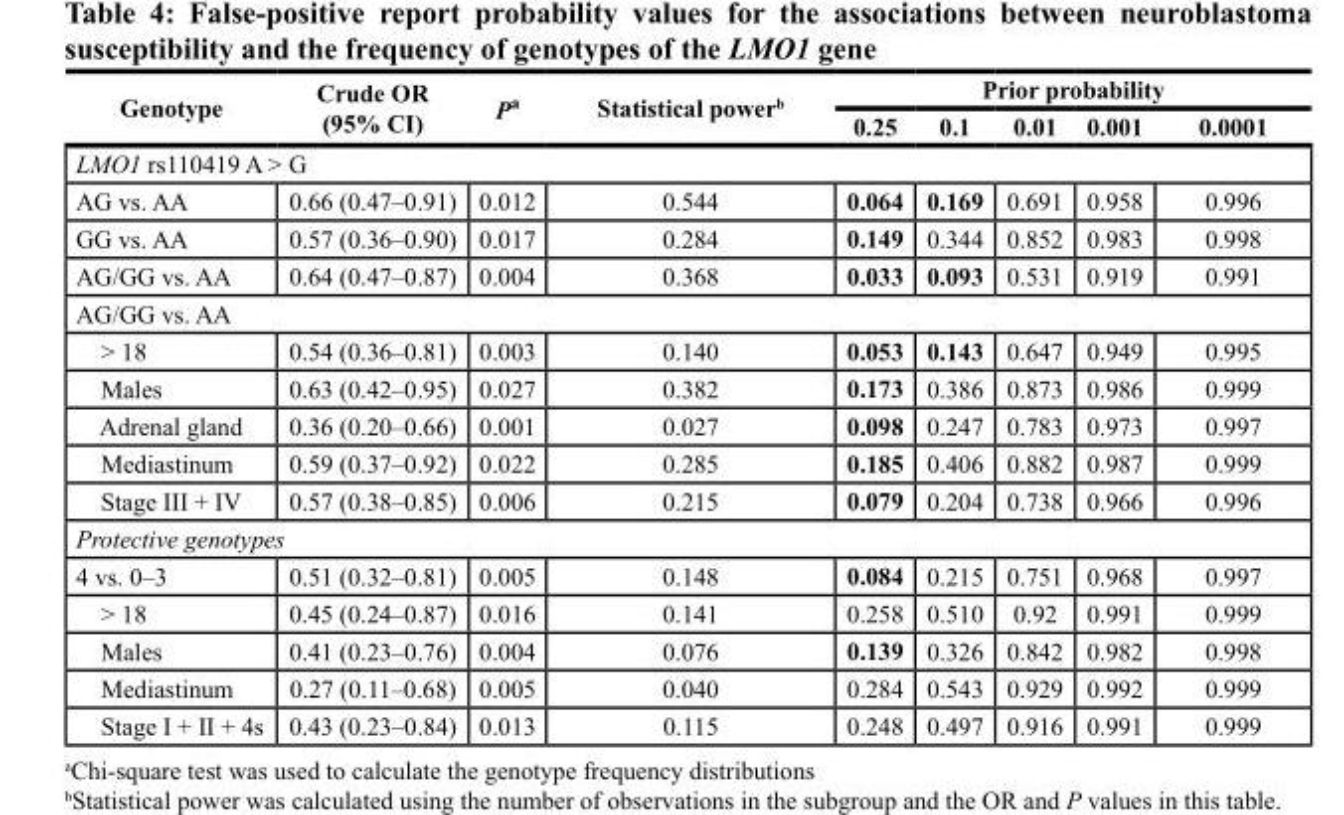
<table><thead><tr><td rowspan="2">Genotype</td><td rowspan="2">Crude OR (95% CI)</td><td rowspan="2">P<sup>a</sup></td><td rowspan="2">Statistical power<sup>b</sup></td><td colspan="5">Prior probability</td></tr><tr><td>0.25</td><td>0.1</td><td>0.01</td><td>0.001</td><td>0.0001</td></tr></thead><tbody><tr><td colspan="9">LMO1 rs110419 A &gt; G</td></tr><tr><td>AG vs. AA</td><td>0.66 (0.47–0.91)</td><td>0.012</td><td>0.544</td><td>0.064</td><td>0.169</td><td>0.691</td><td>0.958</td><td>0.996</td></tr><tr><td>GG vs. AA</td><td>0.57 (0.36–0.90)</td><td>0.017</td><td>0.284</td><td>0.149</td><td>0.344</td><td>0.852</td><td>0.983</td><td>0.998</td></tr><tr><td>AG/GG vs. AA</td><td>0.64 (0.47–0.87)</td><td>0.004</td><td>0.368</td><td>0.033</td><td>0.093</td><td>0.531</td><td>0.919</td><td>0.991</td></tr><tr><td colspan="9">AG/GG vs. AA</td></tr><tr><td>&gt; 18</td><td>0.54 (0.36–0.81)</td><td>0.003</td><td>0.140</td><td>0.053</td><td>0.143</td><td>0.647</td><td>0.949</td><td>0.995</td></tr><tr><td>Males</td><td>0.63 (0.42–0.95)</td><td>0.027</td><td>0.382</td><td>0.173</td><td>0.386</td><td>0.873</td><td>0.986</td><td>0.999</td></tr><tr><td>Adrenal gland</td><td>0.36 (0.20–0.66)</td><td>0.001</td><td>0.027</td><td>0.098</td><td>0.247</td><td>0.783</td><td>0.973</td><td>0.997</td></tr><tr><td>Mediastinum</td><td>0.59 (0.37–0.92)</td><td>0.022</td><td>0.285</td><td>0.185</td><td>0.406</td><td>0.882</td><td>0.987</td><td>0.999</td></tr><tr><td>Stage III + IV</td><td>0.57 (0.38–0.85)</td><td>0.006</td><td>0.215</td><td>0.079</td><td>0.204</td><td>0.738</td><td>0.966</td><td>0.996</td></tr><tr><td colspan="9">Protective genotypes</td></tr><tr><td>4 vs. 0–3</td><td>0.51 (0.32–0.81)</td><td>0.005</td><td>0.148</td><td>0.084</td><td>0.215</td><td>0.751</td><td>0.968</td><td>0.997</td></tr><tr><td>&gt; 18</td><td>0.45 (0.24–0.87)</td><td>0.016</td><td>0.141</td><td>0.258</td><td>0.510</td><td>0.92</td><td>0.991</td><td>0.999</td></tr><tr><td>Males</td><td>0.41 (0.23–0.76)</td><td>0.004</td><td>0.076</td><td>0.139</td><td>0.326</td><td>0.842</td><td>0.982</td><td>0.998</td></tr><tr><td>Mediastinum</td><td>0.27 (0.11–0.68)</td><td>0.005</td><td>0.040</td><td>0.284</td><td>0.543</td><td>0.929</td><td>0.992</td><td>0.999</td></tr><tr><td>Stage I + II + 4s</td><td>0.43 (0.23–0.84)</td><td>0.013</td><td>0.115</td><td>0.248</td><td>0.497</td><td>0.916</td><td>0.991</td><td>0.999</td></tr></tbody></table>